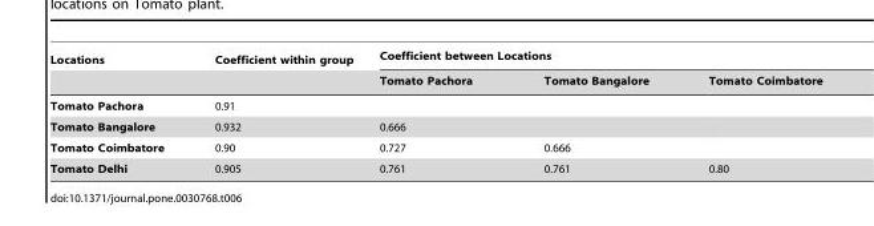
<table><thead><tr><td rowspan="2">Locations</td><td rowspan="2">Coefficient within group</td><td colspan="3">Coefficient between Locations</td></tr><tr><td>Tomato Pachora</td><td>Tomato Bangalore</td><td>Tomato Coimbatore</td></tr></thead><tbody><tr><td>Tomato Pachora</td><td>0.91</td><td></td><td></td><td></td></tr><tr><td>Tomato Bangalore</td><td>0.932</td><td>0.666</td><td></td><td></td></tr><tr><td>Tomato Coimbatore</td><td>0.90</td><td>0.727</td><td>0.666</td><td></td></tr><tr><td>Tomato Delhi</td><td>0.905</td><td>0.761</td><td>0.761</td><td>0.80</td></tr></tbody></table>